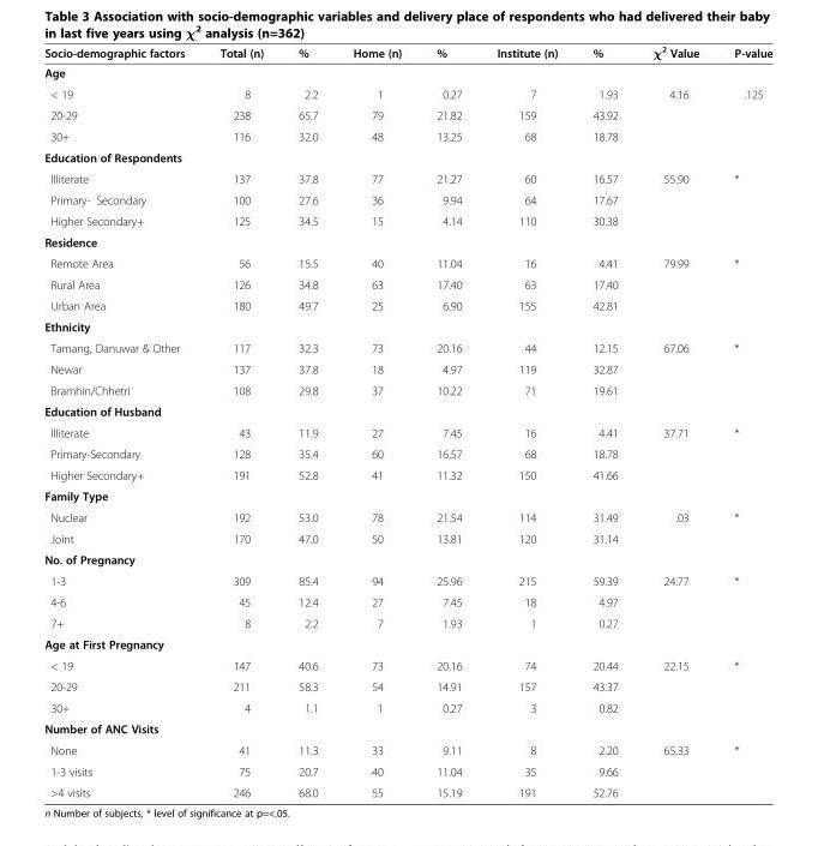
<table><thead><tr><td>Socio-demographic factors</td><td>Total (n)</td><td>%</td><td>Home (n)</td><td>%</td><td>Institute (n)</td><td>%</td><td>χ<sup>2</sup> Value</td><td>P-value</td></tr></thead><tbody><tr><td colspan="9">Age</td></tr><tr><td>&lt; 19</td><td>8</td><td>2.2</td><td>1</td><td>0.27</td><td>7</td><td>1.93</td><td>4.16</td><td>.125</td></tr><tr><td>20-29</td><td>238</td><td>65.7</td><td>79</td><td>21.82</td><td>159</td><td>43.92</td><td></td><td></td></tr><tr><td>30+</td><td>116</td><td>32.0</td><td>48</td><td>13.25</td><td>68</td><td>18.78</td><td></td><td></td></tr><tr><td colspan="9">Education of Respondents</td></tr><tr><td>Illiterate</td><td>137</td><td>37.8</td><td>77</td><td>21.27</td><td>60</td><td>16.57</td><td>55.90</td><td>*</td></tr><tr><td>Primary- Secondary</td><td>100</td><td>27.6</td><td>36</td><td>9.94</td><td>64</td><td>17.67</td><td></td><td></td></tr><tr><td>Higher Secondary+</td><td>125</td><td>34.5</td><td>15</td><td>4.14</td><td>110</td><td>30.38</td><td></td><td></td></tr><tr><td colspan="9">Residence</td></tr><tr><td>Remote Area</td><td>56</td><td>15.5</td><td>40</td><td>11.04</td><td>16</td><td>4.41</td><td>79.99</td><td>*</td></tr><tr><td>Rural Area</td><td>126</td><td>34.8</td><td>63</td><td>17.40</td><td>63</td><td>17.40</td><td></td><td></td></tr><tr><td>Urban Area</td><td>180</td><td>49.7</td><td>25</td><td>6.90</td><td>155</td><td>42.81</td><td></td><td></td></tr><tr><td colspan="9">Ethnicity</td></tr><tr><td>Tamang, Danuwar &amp; Other</td><td>117</td><td>32.3</td><td>73</td><td>20.16</td><td>44</td><td>12.15</td><td>67.06</td><td>*</td></tr><tr><td>Newar</td><td>137</td><td>37.8</td><td>18</td><td>4.97</td><td>119</td><td>32.87</td><td></td><td></td></tr><tr><td>Bramhin/Chhetri</td><td>108</td><td>29.8</td><td>37</td><td>10.22</td><td>71</td><td>19.61</td><td></td><td></td></tr><tr><td colspan="9">Education of Husband</td></tr><tr><td>Illiterate</td><td>43</td><td>11.9</td><td>27</td><td>7.45</td><td>16</td><td>4.41</td><td>37.71</td><td>*</td></tr><tr><td>Primary-Secondary</td><td>128</td><td>35.4</td><td>60</td><td>16.57</td><td>68</td><td>18.78</td><td></td><td></td></tr><tr><td>Higher Secondary+</td><td>191</td><td>52.8</td><td>41</td><td>11.32</td><td>150</td><td>41.66</td><td></td><td></td></tr><tr><td colspan="9">Family Type</td></tr><tr><td>Nuclear</td><td>192</td><td>53.0</td><td>78</td><td>21.54</td><td>114</td><td>31.49</td><td>.03</td><td>*</td></tr><tr><td>Joint</td><td>170</td><td>47.0</td><td>50</td><td>13.81</td><td>120</td><td>31.14</td><td></td><td></td></tr><tr><td colspan="9">No. of Pregnancy</td></tr><tr><td>1-3</td><td>309</td><td>85.4</td><td>94</td><td>25.96</td><td>215</td><td>59.39</td><td>24.77</td><td>*</td></tr><tr><td>4-6</td><td>45</td><td>12.4</td><td>27</td><td>7.45</td><td>18</td><td>4.97</td><td></td><td></td></tr><tr><td>7+</td><td>8</td><td>2.2</td><td>7</td><td>1.93</td><td>1</td><td>0.27</td><td></td><td></td></tr><tr><td colspan="9">Age at First Pregnancy</td></tr><tr><td>&lt; 19</td><td>147</td><td>40.6</td><td>73</td><td>20.16</td><td>74</td><td>20.44</td><td>22.15</td><td>*</td></tr><tr><td>20-29</td><td>211</td><td>58.3</td><td>54</td><td>14.91</td><td>157</td><td>43.37</td><td></td><td></td></tr><tr><td>30+</td><td>4</td><td>1.1</td><td>1</td><td>0.27</td><td>3</td><td>0.82</td><td></td><td></td></tr><tr><td colspan="9">Number of ANC Visits</td></tr><tr><td>None</td><td>41</td><td>11.3</td><td>33</td><td>9.11</td><td>8</td><td>2.20</td><td>65.33</td><td>*</td></tr><tr><td>1-3 visits</td><td>75</td><td>20.7</td><td>40</td><td>11.04</td><td>35</td><td>9.66</td><td></td><td></td></tr><tr><td>&gt;4 visits</td><td>246</td><td>68.0</td><td>55</td><td>15.19</td><td>191</td><td>52.76</td><td></td><td></td></tr></tbody></table>